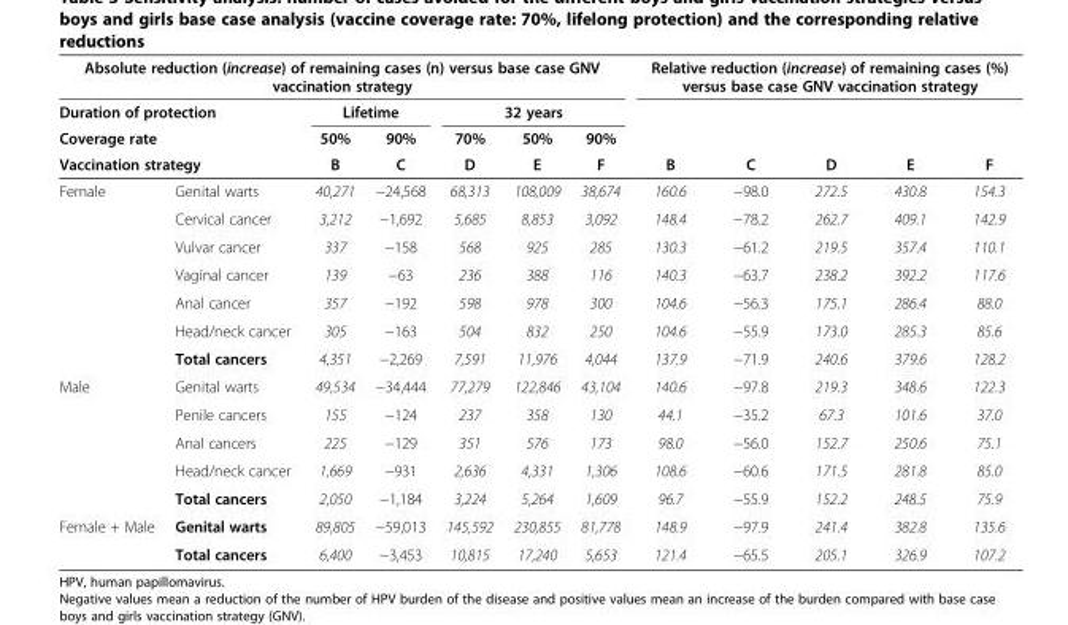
<table><thead><tr><td colspan="7">Absolute reduction (increase) of remaining cases (n) versus base case GNV vaccination strategy</td><td colspan="5">Relative reduction (increase) of remaining cases (%) versus base case GNV vaccination strategy</td></tr><tr><td rowspan="3" colspan="2">Duration of protection Coverage rate Vaccination strategy</td><td colspan="2">Lifetime</td><td colspan="3">32 years</td><td rowspan="4">B 160.6</td><td rowspan="4">C −98.0</td><td rowspan="4">D 272.5</td><td rowspan="4">E 430.8</td><td rowspan="4">F 154.3</td></tr><tr><td rowspan="3">50% B 40,271</td><td rowspan="3">90% C −24,568</td><td rowspan="3">70% D 68,313</td><td rowspan="3">50% E 108,009</td><td rowspan="3">90% F 38,674</td></tr><tr></tr><tr><td>Female</td><td>Genital warts</td></tr></thead><tbody><tr><td></td><td>Cervical cancer</td><td>3,212</td><td>−1,692</td><td>5,685</td><td>8,853</td><td>3,092</td><td>148.4</td><td>−78.2</td><td>262.7</td><td>409.1</td><td>142.9</td></tr><tr><td></td><td>Vulvar cancer</td><td>337</td><td>−158</td><td>568</td><td>925</td><td>285</td><td>130.3</td><td>−61.2</td><td>219.5</td><td>357.4</td><td>110.1</td></tr><tr><td></td><td>Vaginal cancer</td><td>139</td><td>−63</td><td>236</td><td>388</td><td>116</td><td>140.3</td><td>−63.7</td><td>238.2</td><td>392.2</td><td>117.6</td></tr><tr><td></td><td>Anal cancer</td><td>357</td><td>−192</td><td>598</td><td>978</td><td>300</td><td>104.6</td><td>−56.3</td><td>175.1</td><td>286.4</td><td>88.0</td></tr><tr><td></td><td>Head/neck cancer</td><td>305</td><td>−163</td><td>504</td><td>832</td><td>250</td><td>104.6</td><td>−55.9</td><td>173.0</td><td>285.3</td><td>85.6</td></tr><tr><td></td><td>Total cancers</td><td>4,351</td><td>−2,269</td><td>7,591</td><td>11,976</td><td>4,044</td><td>137.9</td><td>−71.9</td><td>240.6</td><td>379.6</td><td>128.2</td></tr><tr><td rowspan="5">Male</td><td>Genital warts</td><td>49,534</td><td>−34,444</td><td>77,279</td><td>122,846</td><td>43,104</td><td>140.6</td><td>−97.8</td><td>219.3</td><td>348.6</td><td>122.3</td></tr><tr><td>Penile cancers</td><td>155</td><td>−124</td><td>237</td><td>358</td><td>130</td><td>44.1</td><td>−35.2</td><td>67.3</td><td>101.6</td><td>37.0</td></tr><tr><td>Anal cancers</td><td>225</td><td>−129</td><td>351</td><td>576</td><td>173</td><td>98.0</td><td>−56.0</td><td>152.7</td><td>250.6</td><td>75.1</td></tr><tr><td>Head/neck cancer</td><td>1,669</td><td>−931</td><td>2,636</td><td>4,331</td><td>1,306</td><td>108.6</td><td>−60.6</td><td>171.5</td><td>281.8</td><td>85.0</td></tr><tr><td>Total cancers</td><td>2,050</td><td>−1,184</td><td>3,224</td><td>5,264</td><td>1,609</td><td>96.7</td><td>−55.9</td><td>152.2</td><td>248.5</td><td>75.9</td></tr><tr><td rowspan="2">Female + Male</td><td>Genital warts</td><td>89,805</td><td>−59,013</td><td>145,592</td><td>230,855</td><td>81,778</td><td>148.9</td><td>−97.9</td><td>241.4</td><td>382.8</td><td>135.6</td></tr><tr><td>Total cancers</td><td>6,400</td><td>−3,453</td><td>10,815</td><td>17,240</td><td>5,653</td><td>121.4</td><td>−65.5</td><td>205.1</td><td>326.9</td><td>107.2</td></tr></tbody></table>